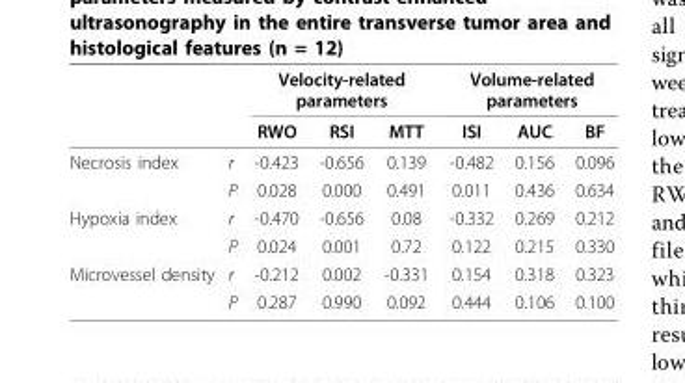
<table><thead><tr><td rowspan="2"></td><td rowspan="2"></td><td colspan="3">Velocity-related parameters</td><td colspan="3">Volume-related parameters</td></tr><tr><td>RWO</td><td>RSI</td><td>MTT</td><td>ISI</td><td>AUC</td><td>BF</td></tr></thead><tbody><tr><td rowspan="2">Necrosis index</td><td>r</td><td>-0.423</td><td>-0.656</td><td>0.139</td><td>-0.482</td><td>0.156</td><td>0.096</td></tr><tr><td>P</td><td>0.028</td><td>0.000</td><td>0.491</td><td>0.011</td><td>0.436</td><td>0.634</td></tr><tr><td rowspan="2">Hypoxia index</td><td>r</td><td>-0.470</td><td>-0.656</td><td>0.08</td><td>-0.332</td><td>0.269</td><td>0.212</td></tr><tr><td>P</td><td>0.024</td><td>0.001</td><td>0.72</td><td>0.122</td><td>0.215</td><td>0.330</td></tr><tr><td rowspan="2">Microvessel density</td><td>r</td><td>-0.212</td><td>0.002</td><td>-0.331</td><td>0.154</td><td>0.318</td><td>0.323</td></tr><tr><td>P</td><td>0.287</td><td>0.990</td><td>0.092</td><td>0.444</td><td>0.106</td><td>0.100</td></tr></tbody></table>